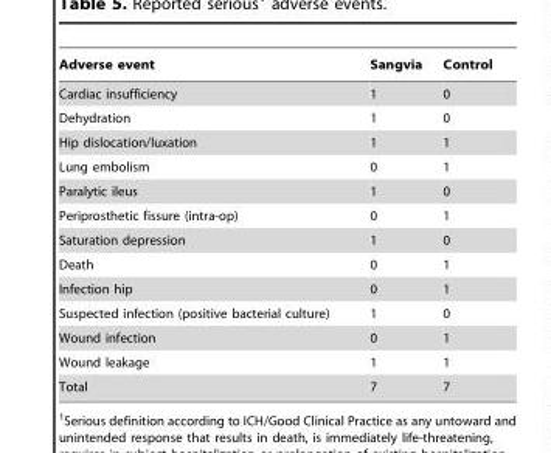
<table><thead><tr><td>Adverse event</td><td>Sangvia</td><td>Control</td></tr></thead><tbody><tr><td>Cardiac insufficiency</td><td>1</td><td>0</td></tr><tr><td>Dehydration</td><td>1</td><td>0</td></tr><tr><td>Hip dislocation/luxation</td><td>1</td><td>1</td></tr><tr><td>Lung embolism</td><td>0</td><td>1</td></tr><tr><td>Paralytic ileus</td><td>1</td><td>0</td></tr><tr><td>Periprosthetic fissure (intra-op)</td><td>0</td><td>1</td></tr><tr><td>Saturation depression</td><td>1</td><td>0</td></tr><tr><td>Death</td><td>0</td><td>1</td></tr><tr><td>Infection hip</td><td>0</td><td>1</td></tr><tr><td>Suspected infection (positive bacterial culture)</td><td>1</td><td>0</td></tr><tr><td>Wound infection</td><td>0</td><td>1</td></tr><tr><td>Wound leakage</td><td>1</td><td>1</td></tr><tr><td>Total</td><td>7</td><td>7</td></tr></tbody></table>